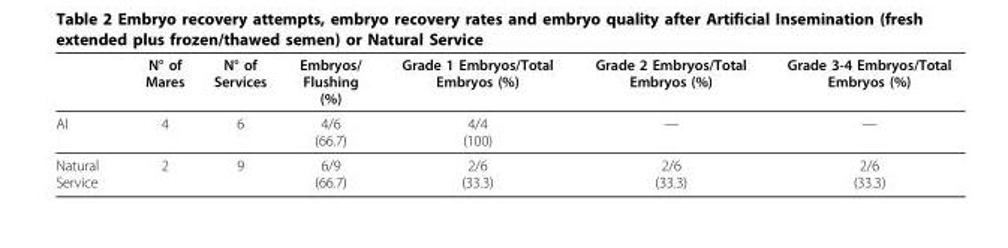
<table><thead><tr><td></td><td>N° of Mares</td><td>N° of Services</td><td>Embryos/ Flushing (%)</td><td>Grade 1 Embryos/Total Embryos (%)</td><td>Grade 2 Embryos/Total Embryos (%)</td><td>Grade 3-4 Embryos/Total Embryos (%)</td></tr></thead><tbody><tr><td>AI</td><td>4</td><td>6</td><td>4/6 (66.7)</td><td>4/4 (100)</td><td>—</td><td>—</td></tr><tr><td>Natural Service</td><td>2</td><td>9</td><td>6/9 (66.7)</td><td>2/6 (33.3)</td><td>2/6 (33.3)</td><td>2/6 (33.3)</td></tr></tbody></table>